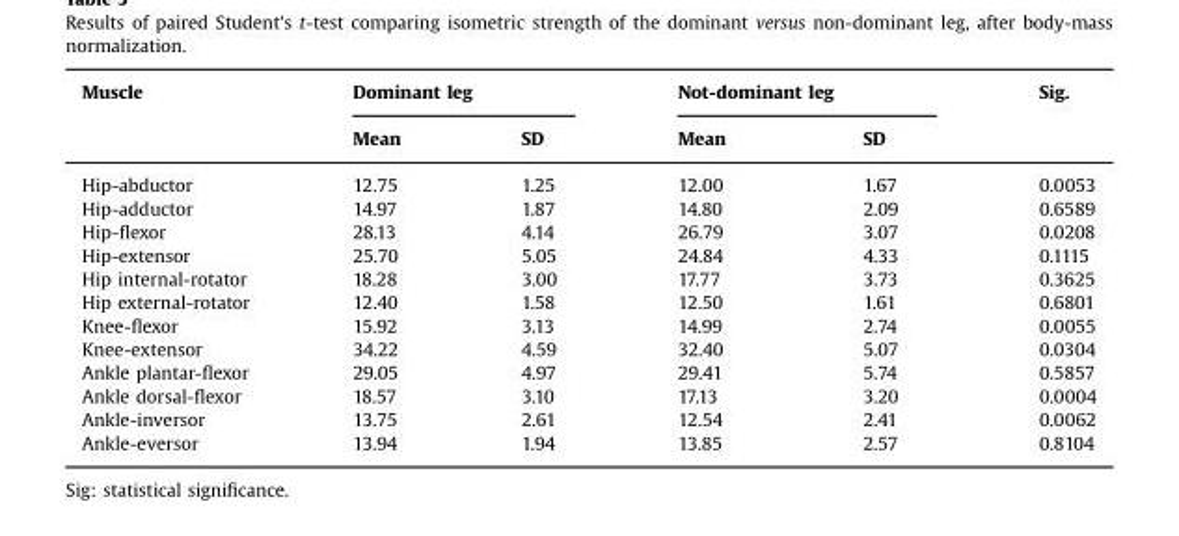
<table><thead><tr><td rowspan="2">Muscle</td><td colspan="2">Dominant leg</td><td colspan="2">Not-dominant leg</td><td rowspan="2">Sig.</td></tr><tr><td>Mean</td><td>SD</td><td>Mean</td><td>SD</td></tr></thead><tbody><tr><td>Hip-abductor</td><td>12.75</td><td>1.25</td><td>12.00</td><td>1.67</td><td>0.0053</td></tr><tr><td>Hip-adductor</td><td>14.97</td><td>1.87</td><td>14.80</td><td>2.09</td><td>0.6589</td></tr><tr><td>Hip-flexor</td><td>28.13</td><td>4.14</td><td>26.79</td><td>3.07</td><td>0.0208</td></tr><tr><td>Hip-extensor</td><td>25.70</td><td>5.05</td><td>24.84</td><td>4.33</td><td>0.1115</td></tr><tr><td>Hip internal-rotator</td><td>18.28</td><td>3.00</td><td>17.77</td><td>3.73</td><td>0.3625</td></tr><tr><td>Hip external-rotator</td><td>12.40</td><td>1.58</td><td>12.50</td><td>1.61</td><td>0.6801</td></tr><tr><td>Knee-flexor</td><td>15.92</td><td>3.13</td><td>14.99</td><td>2.74</td><td>0.0055</td></tr><tr><td>Knee-extensor</td><td>34.22</td><td>4.59</td><td>32.40</td><td>5.07</td><td>0.0304</td></tr><tr><td>Ankle plantar-flexor</td><td>29.05</td><td>4.97</td><td>29.41</td><td>5.74</td><td>0.5857</td></tr><tr><td>Ankle dorsal-flexor</td><td>18.57</td><td>3.10</td><td>17.13</td><td>3.20</td><td>0.0004</td></tr><tr><td>Ankle-inversor</td><td>13.75</td><td>2.61</td><td>12.54</td><td>2.41</td><td>0.0062</td></tr><tr><td>Ankle-eversor</td><td>13.94</td><td>1.94</td><td>13.85</td><td>2.57</td><td>0.8104</td></tr></tbody></table>